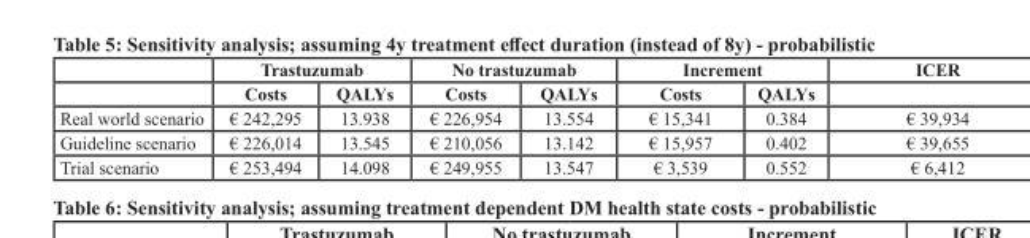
<table><thead><tr><td rowspan="2"></td><td colspan="2">Trastuzumab</td><td colspan="2">No trastuzumab</td><td colspan="2">Increment</td><td rowspan="2">ICER</td></tr><tr><td>Costs</td><td>QALYs</td><td>Costs</td><td>QALYs</td><td>Costs</td><td>QALYs</td></tr></thead><tbody><tr><td>Real world scenario</td><td>€ 242,295</td><td>13.938</td><td>€ 226,954</td><td>13.554</td><td>€ 15,341</td><td>0.384</td><td>€ 39,934</td></tr><tr><td>Guideline scenario</td><td>€ 226,014</td><td>13.545</td><td>€ 210,056</td><td>13.142</td><td>€ 15,957</td><td>0.402</td><td>€ 39,655</td></tr><tr><td>Trial scenario</td><td>€ 253,494</td><td>14.098</td><td>€ 249,955</td><td>13.547</td><td>€ 3,539</td><td>0.552</td><td>€ 6,412</td></tr></tbody></table>